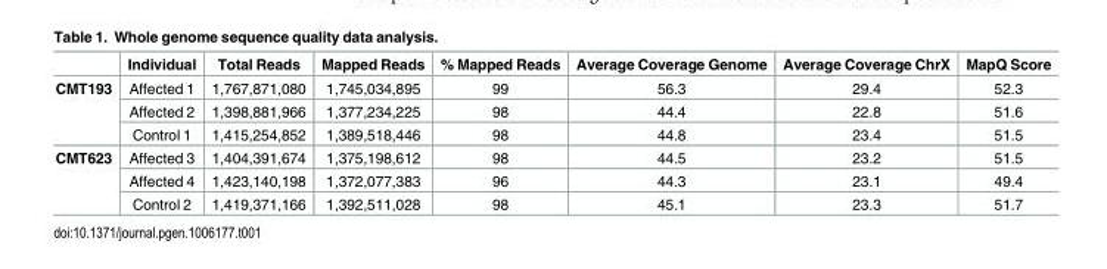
<table><thead><tr><td></td><td>Individual</td><td>Total Reads</td><td>Mapped Reads</td><td>% Mapped Reads</td><td>Average Coverage Genome</td><td>Average Coverage ChrX</td><td>MapQ Score</td></tr></thead><tbody><tr><td rowspan="3">CMT193</td><td>Affected 1</td><td>1,767,871,080</td><td>1,745,034,895</td><td>99</td><td>56.3</td><td>29.4</td><td>52.3</td></tr><tr><td>Affected 2</td><td>1,398,881,966</td><td>1,377,234,225</td><td>98</td><td>44.4</td><td>22.8</td><td>51.6</td></tr><tr><td>Control 1</td><td>1,415,254,852</td><td>1,389,518,446</td><td>98</td><td>44.8</td><td>23.4</td><td>51.5</td></tr><tr><td rowspan="3">CMT623</td><td>Affected 3</td><td>1,404,391,674</td><td>1,375,198,612</td><td>98</td><td>44.5</td><td>23.2</td><td>51.5</td></tr><tr><td>Affected 4</td><td>1,423,140,198</td><td>1,372,077,383</td><td>96</td><td>44.3</td><td>23.1</td><td>49.4</td></tr><tr><td>Control 2</td><td>1,419,371,166</td><td>1,392,511,028</td><td>98</td><td>45.1</td><td>23.3</td><td>51.7</td></tr></tbody></table>